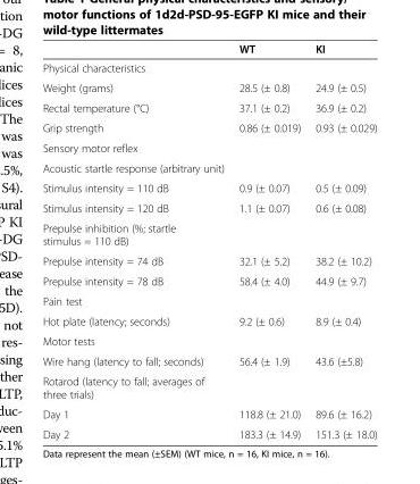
<table><thead><tr><td></td><td>WT</td><td>KI</td></tr></thead><tbody><tr><td colspan="3">Physical characteristics</td></tr><tr><td>Weight (grams)</td><td>28.5 (± 0.8)</td><td>24.9 (± 0.5)</td></tr><tr><td>Rectal temperature (°C)</td><td>37.1 (± 0.2)</td><td>36.9 (± 0.2)</td></tr><tr><td>Grip strength</td><td>0.86 (± 0.019)</td><td>0.93 (± 0.029)</td></tr><tr><td colspan="3">Sensory motor reflex</td></tr><tr><td colspan="3">Acoustic startle response (arbitrary unit)</td></tr><tr><td>Stimulus intensity = 110 dB</td><td>0.9 (± 0.07)</td><td>0.5 (± 0.09)</td></tr><tr><td>Stimulus intensity = 120 dB</td><td>1.1 (± 0.07)</td><td>0.6 (± 0.08)</td></tr><tr><td colspan="3">Prepulse inhibition (%; startle stimulus = 110 dB)</td></tr><tr><td>Prepulse intensity = 74 dB</td><td>32.1 (± 5.2)</td><td>38.2 (± 10.2)</td></tr><tr><td>Prepulse intensity = 78 dB</td><td>58.4 (± 4.0)</td><td>44.9 (± 9.7)</td></tr><tr><td colspan="3">Pain test</td></tr><tr><td>Hot plate (latency; seconds)</td><td>9.2 (± 0.6)</td><td>8.9 (± 0.4)</td></tr><tr><td colspan="3">Motor tests</td></tr><tr><td>Wire hang (latency to fall; seconds)</td><td>56.4 (± 1.9)</td><td>43.6 (±5.8)</td></tr><tr><td colspan="3">Rotarod (latency to fall; averages of three trials)</td></tr><tr><td>Day 1</td><td>118.8 (± 21.0)</td><td>89.6 (± 16.2)</td></tr><tr><td>Day 2</td><td>183.3 (± 14.9)</td><td>151.3 (± 18.0)</td></tr></tbody></table>